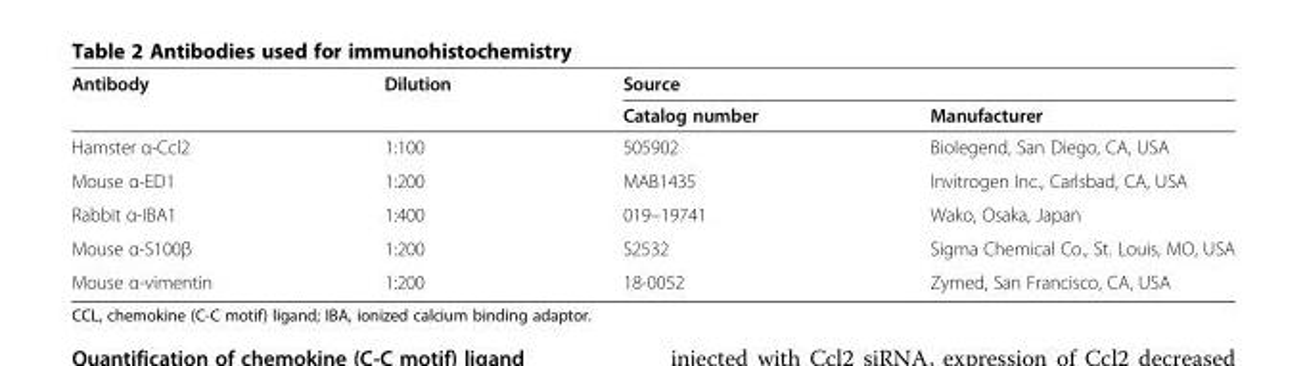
<table><thead><tr><td rowspan="2">Antibody</td><td rowspan="2">Dilution</td><td colspan="2">Source</td></tr><tr><td>Catalog number</td><td>Manufacturer</td></tr></thead><tbody><tr><td>Hamster α-Ccl2</td><td>1:100</td><td>505902</td><td>Biolegend, San Diego, CA, USA</td></tr><tr><td>Mouse α-ED1</td><td>1:200</td><td>MAB1435</td><td>Invitrogen Inc., Carlsbad, CA, USA</td></tr><tr><td>Rabbit α-IBA1</td><td>1:400</td><td>019–19741</td><td>Wako, Osaka, Japan</td></tr><tr><td>Mouse α-S100β</td><td>1:200</td><td>S2532</td><td>Sigma Chemical Co., St. Louis, MO, USA</td></tr><tr><td>Mouse α-vimentin</td><td>1:200</td><td>18-0052</td><td>Zymed, San Francisco, CA, USA</td></tr></tbody></table>